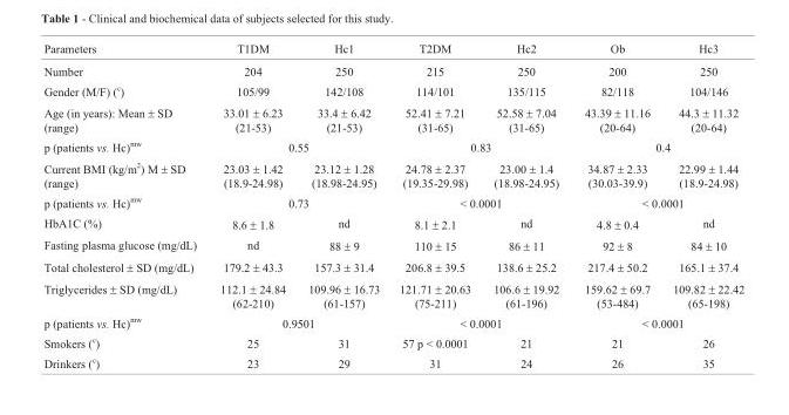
<table><thead><tr><td>Parameters</td><td>T1DM</td><td>Hc1</td><td>T2DM</td><td>Hc2</td><td>Ob</td><td>Hc3</td></tr></thead><tbody><tr><td>Number</td><td>204</td><td>250</td><td>215</td><td>250</td><td>200</td><td>250</td></tr><tr><td>Gender (M/F) (<sup>c</sup>)</td><td>105/99</td><td>142/108</td><td>114/101</td><td>135/115</td><td>82/118</td><td>104/146</td></tr><tr><td>Age (in years): Mean ± SD (range)</td><td>33.01 ± 6.23 (21-53)</td><td>33.4 ± 6.42 (21-53)</td><td>52.41 ± 7.21 (31-65)</td><td>52.58 ± 7.04 (31-65)</td><td>43.39 ± 11.16 (20-64)</td><td>44.3 ± 11.32 (20-64)</td></tr><tr><td>p (patients vs. Hc)<sup>mw</sup></td><td colspan="2">0.55</td><td colspan="2">0.83</td><td colspan="2">0.4</td></tr><tr><td>Current BMI (kg/m<sup>2</sup>) M ± SD (range)</td><td>23.03 ± 1.42 (18.9-24.98)</td><td>23.12 ± 1.28 (18.98-24.95)</td><td>24.78 ± 2.37 (19.35-29.98)</td><td>23.00 ± 1.4 (18.98-24.95)</td><td>34.87 ± 2.33 (30.03-39.9)</td><td>22.99 ± 1.44 (18.9-24.98)</td></tr><tr><td>p (patients vs. Hc)<sup>mw</sup></td><td colspan="2">0.73</td><td colspan="2">&lt; 0.0001</td><td colspan="2">&lt; 0.0001</td></tr><tr><td>HbA1C (%)</td><td>8.6 ± 1.8</td><td>nd</td><td>8.1 ± 2.1</td><td>nd</td><td>4.8 ± 0.4</td><td>nd</td></tr><tr><td>Fasting plasma glucose (mg/dL)</td><td>nd</td><td>88 ± 9</td><td>110 ± 15</td><td>86 ± 11</td><td>92 ± 8</td><td>84 ± 10</td></tr><tr><td>Total cholesterol ± SD (mg/dL)</td><td>179.2 ± 43.3</td><td>157.3 ± 31.4</td><td>206.8 ± 39.5</td><td>138.6 ± 25.2</td><td>217.4 ± 50.2</td><td>165.1 ± 37.4</td></tr><tr><td>Triglycerides ± SD (mg/dL)</td><td>112.1 ± 24.84 (62-210)</td><td>109.96 ± 16.73 (61-157)</td><td>121.71 ± 20.63 (75-211)</td><td>106.6 ± 19.92 (61-196)</td><td>159.62 ± 69.7 (53-484)</td><td>109.82 ± 22.42 (65-198)</td></tr><tr><td>p (patients vs. Hc)<sup>mw</sup></td><td colspan="2">0.9501</td><td colspan="2">&lt; 0.0001</td><td colspan="2">&lt; 0.0001</td></tr><tr><td>Smokers (<sup>c</sup>)</td><td>25</td><td>31</td><td>57 p &lt; 0.0001</td><td>21</td><td>21</td><td>26</td></tr><tr><td>Drinkers (<sup>c</sup>)</td><td>23</td><td>29</td><td>31</td><td>24</td><td>26</td><td>35</td></tr></tbody></table>